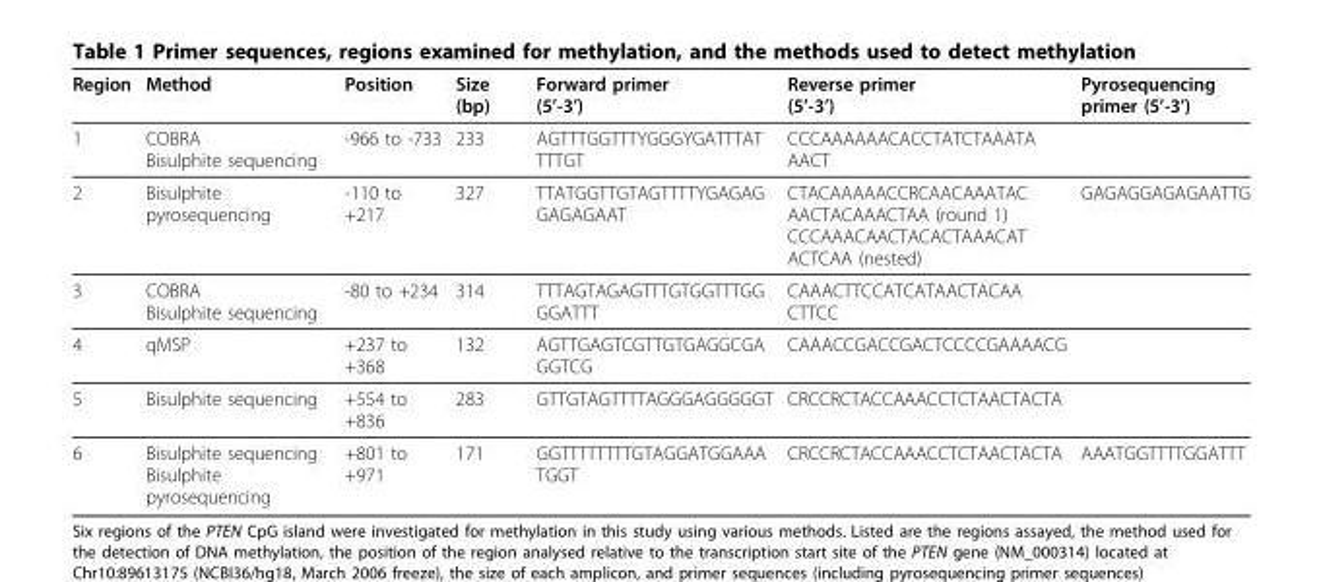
<table><thead><tr><td>Region</td><td>Method</td><td>Position</td><td>Size (bp)</td><td>Forward primer (5’-3’)</td><td>Reverse primer (5’-3’)</td><td>Pyrosequencing primer (5’-3’)</td></tr></thead><tbody><tr><td>1</td><td>COBRA Bisulphite sequencing</td><td>-966 to -733</td><td>233</td><td>AGTTTGGTTTYGGGYGATTTAT TTTGT</td><td>CCCAAAAAACACCTATCTAAATA AACT</td><td></td></tr><tr><td>2</td><td>Bisulphite pyrosequencing</td><td>-110 to +217</td><td>327</td><td>TTATGGTTGTAGTTTTYGAGAG GAGAGAAT</td><td>CTACAAAAACCRCAACAAATAC AACTACAAACTAA (round 1) CCCAAACAACTACACTAAACAT ACTCAA (nested)</td><td>GAGAGGAGAGAATTG</td></tr><tr><td>3</td><td>COBRA Bisulphite sequencing</td><td>-80 to +234</td><td>314</td><td>TTTAGTAGAGTTTGTGGTTTGG GGATTT</td><td>CAAACTTCCATCATAACTACAA CTTCC</td><td></td></tr><tr><td>4</td><td>qMSP</td><td>+237 to +368</td><td>132</td><td>AGTTGAGTCGTTGTGAGGCGA GGTCG</td><td>CAAACCGACCGACTCCCCGAAAACG</td><td></td></tr><tr><td>5</td><td>Bisulphite sequencing</td><td>+554 to +836</td><td>283</td><td>GTTGTAGTTTTAGGGAGGGGGT</td><td>CRCCRCTACCAAACCTCTAACTACTA</td><td></td></tr><tr><td>6</td><td>Bisulphite sequencing Bisulphite pyrosequencing</td><td>+801 to +971</td><td>171</td><td>GGTTTTTTTTGTAGGATGGAAA TGGT</td><td>CRCCRCTACCAAACCTCTAACTACTA</td><td>AAATGGTTTTGGATTT</td></tr></tbody></table>